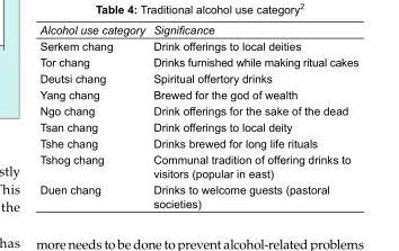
<table><tbody><tr><td>Serkem chang</td><td>Drink offerings to local deities</td></tr><tr><td>Tor chang</td><td>Drinks furnished while making ritual cakes</td></tr><tr><td>Deutsi chang</td><td>Spiritual offertory drinks</td></tr><tr><td>Yang chang</td><td>Brewed for the god of wealth</td></tr><tr><td>Ngo chang</td><td>Drink offerings for the sake of the dead</td></tr><tr><td>Tsan chang</td><td>Drink offerings to local deity</td></tr><tr><td>Tshe chang</td><td>Drinks brewed for long life rituals</td></tr><tr><td>Tshog chang</td><td>Communal tradition of offering drinks to visitors (popular in east)</td></tr><tr><td>Duen chang</td><td>Drinks to welcome guests (pastoral societies)</td></tr></tbody></table>